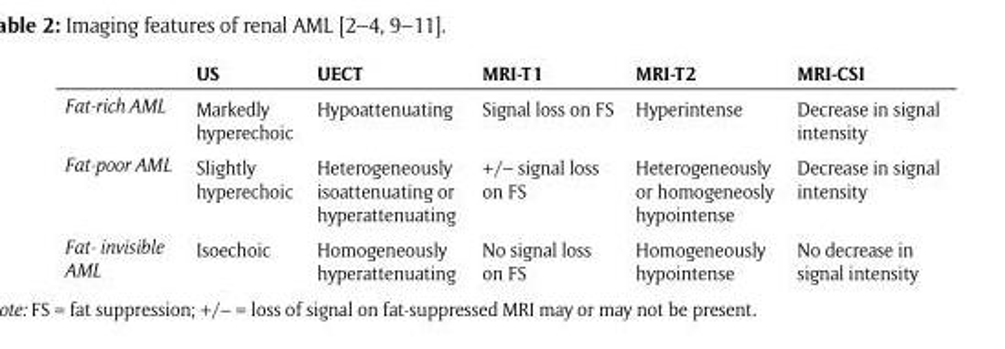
<table><thead><tr><td></td><td>US</td><td>UECT</td><td>MRI-T1</td><td>MRI-T2</td><td>MRI-CSI</td></tr></thead><tbody><tr><td>Fat-rich AML</td><td>Markedly hyperechoic</td><td>Hypoattenuating</td><td>Signal loss on FS</td><td>Hyperintense</td><td>Decrease in signal intensity</td></tr><tr><td>Fat-poor AML</td><td>Slightly hyperechoic</td><td>Heterogeneously isoattenuating or hyperattenuating</td><td>+/– signal loss on FS</td><td>Heterogeneously or homogeneosly hypointense</td><td>Decrease in signal intensity</td></tr><tr><td>Fat- invisible AML</td><td>Isoechoic</td><td>Homogeneously hyperattenuating</td><td>No signal loss on FS</td><td>Homogeneously hypointense</td><td>No decrease in signal intensity</td></tr></tbody></table>